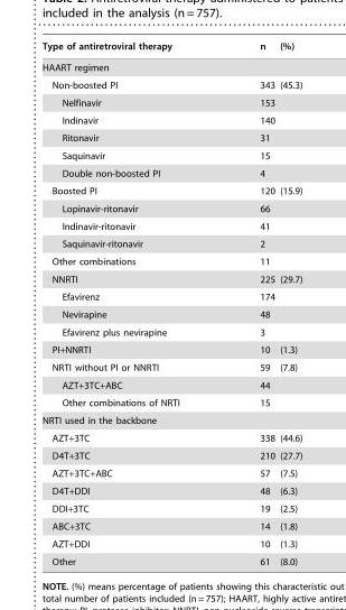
<table><thead><tr><td>Type of antiretroviral therapy</td><td>n</td><td>(%)</td></tr></thead><tbody><tr><td colspan="3">HAART regimen</td></tr><tr><td>Non-boosted PI</td><td>343</td><td>(45.3)</td></tr><tr><td>Nelfinavir</td><td>153</td><td></td></tr><tr><td>Indinavir</td><td>140</td><td></td></tr><tr><td>Ritonavir</td><td>31</td><td></td></tr><tr><td>Saquinavir</td><td>15</td><td></td></tr><tr><td>Double non-boosted PI</td><td>4</td><td></td></tr><tr><td>Boosted PI</td><td>120</td><td>(15.9)</td></tr><tr><td>Lopinavir-ritonavir</td><td>66</td><td></td></tr><tr><td>Indinavir-ritonavir</td><td>41</td><td></td></tr><tr><td>Saquinavir-ritonavir</td><td>2</td><td></td></tr><tr><td>Other combinations</td><td>11</td><td></td></tr><tr><td>NNRTI</td><td>225</td><td>(29.7)</td></tr><tr><td>Efavirenz</td><td>174</td><td></td></tr><tr><td>Nevirapine</td><td>48</td><td></td></tr><tr><td>Efavirenz plus nevirapine</td><td>3</td><td></td></tr><tr><td>PI+NNRTI</td><td>10</td><td>(1.3)</td></tr><tr><td>NRTI without PI or NNRTI</td><td>59</td><td>(7.8)</td></tr><tr><td>AZT+3TC+ABC</td><td>44</td><td></td></tr><tr><td>Other combinations of NRTI</td><td>15</td><td></td></tr><tr><td colspan="3">NRTI used in the backbone</td></tr><tr><td>AZT+3TC</td><td>338</td><td>(44.6)</td></tr><tr><td>D4T+3TC</td><td>210</td><td>(27.7)</td></tr><tr><td>AZT+3TC+ABC</td><td>57</td><td>(7.5)</td></tr><tr><td>D4T+DDI</td><td>48</td><td>(6.3)</td></tr><tr><td>DDI+3TC</td><td>19</td><td>(2.5)</td></tr><tr><td>ABC+3TC</td><td>14</td><td>(1.8)</td></tr><tr><td>AZT+DDI</td><td>10</td><td>(1.3)</td></tr><tr><td>Other</td><td>61</td><td>(8.0)</td></tr></tbody></table>